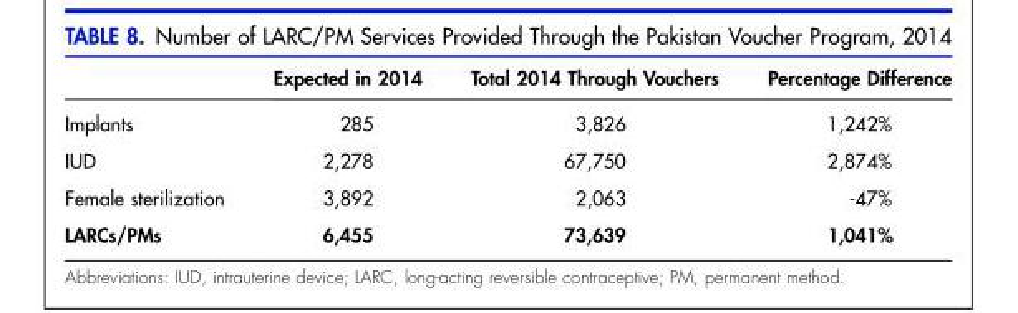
<table><thead><tr><td></td><td>Expected in 2014</td><td>Total 2014 Through Vouchers</td><td>Percentage Difference</td></tr></thead><tbody><tr><td>Implants</td><td>285</td><td>3,826</td><td>1,242%</td></tr><tr><td>IUD</td><td>2,278</td><td>67,750</td><td>2,874%</td></tr><tr><td>Female sterilization</td><td>3,892</td><td>2,063</td><td>-47%</td></tr><tr><td>LARCs/PMs</td><td>6,455</td><td>73,639</td><td>1,041%</td></tr></tbody></table>